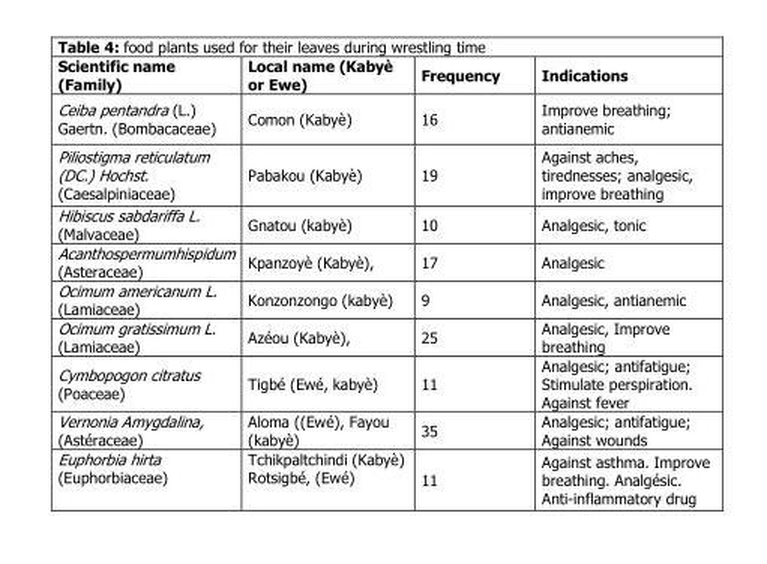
<table><thead><tr><td>Scientific name (Family)</td><td>Local name (Kabyè or Ewe)</td><td>Frequency</td><td>Indications</td></tr></thead><tbody><tr><td>Ceiba pentandra (L.) Gaertn. (Bombacaceae)</td><td>Comon (Kabyè)</td><td>16</td><td>Improve breathing; antianemic</td></tr><tr><td>Piliostigma reticulatum (DC.) Hochst. (Caesalpiniaceae)</td><td>Pabakou (Kabyè)</td><td>19</td><td>Against aches, tirednesses; analgesic, improve breathing</td></tr><tr><td>Hibiscus sabdariffa L. (Malvaceae)</td><td>Gnatou (kabyè)</td><td>10</td><td>Analgesic, tonic</td></tr><tr><td>Acanthospermumhispidum (Asteraceae)</td><td>Kpanzoyè (Kabyè),</td><td>17</td><td>Analgesic</td></tr><tr><td>Ocimum americanum L. (Lamiaceae)</td><td>Konzonzongo (kabyè)</td><td>9</td><td>Analgesic, antianemic</td></tr><tr><td>Ocimum gratissimum L. (Lamiaceae)</td><td>Azéou (Kabyè),</td><td>25</td><td>Analgesic, Improve breathing</td></tr><tr><td>Cymbopogon citratus (Poaceae)</td><td>Tigbé (Ewé, kabyè)</td><td>11</td><td>Analgesic; antifatigue; Stimulate perspiration. Against fever</td></tr><tr><td>Vernonia Amygdalina, (Astéraceae)</td><td>Aloma ((Ewé), Fayou (kabyè)</td><td>35</td><td>Analgesic; antifatigue; Against wounds</td></tr><tr><td>Euphorbia hirta (Euphorbiaceae)</td><td>Tchikpaltchindi (Kabyè) Rotsigbé, (Ewé)</td><td>11</td><td>Against asthma. Improve breathing. Analgésic. Anti-inflammatory drug</td></tr></tbody></table>